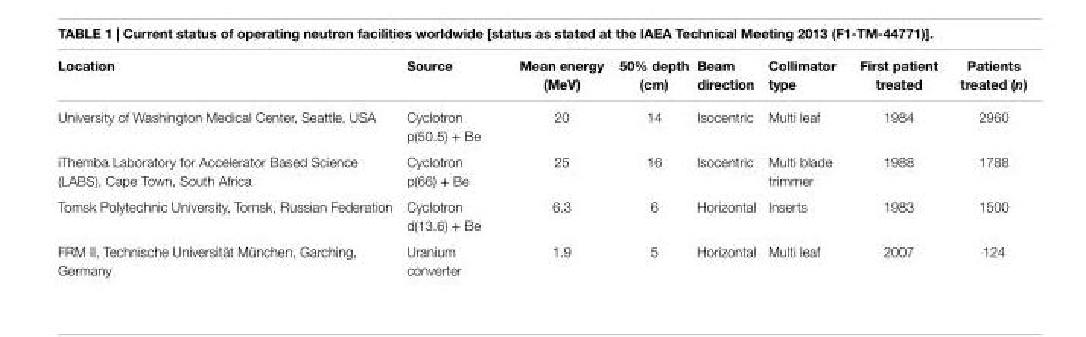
<table><thead><tr><td>location</td><td>source</td><td>Mean energy (MeV)</td><td>50% depth (cm)</td><td>Beam direction</td><td>collimator type</td><td>First patient treated</td><td>Patients treated (n)</td></tr></thead><tbody><tr><td>University of Washington Medical Center, Seattle, USA</td><td>Cyclotron p(50.5) + Be</td><td>20</td><td>14</td><td>Isocentric</td><td>Multi leaf</td><td>1984</td><td>2960</td></tr><tr><td>iThemba Laboratory for Accelerator Based Science (LABS), Cape Town, South Africa</td><td>Cyclotron p(66) + Be</td><td>25</td><td>16</td><td>Isocentric</td><td>Multi blade trimmer</td><td>1988</td><td>1788</td></tr><tr><td>Tomsk Polytechnic University, Tomsk, Russian Federation</td><td>Cyclotron d(13.6) + Be</td><td>6.3</td><td>6</td><td>Horizontal</td><td>Inserts</td><td>1983</td><td>1500</td></tr><tr><td>FRM II, Technische Universität München, Garching, Germany</td><td>Uranium converter</td><td>1.9</td><td>5</td><td>Horizontal</td><td>Multi leaf</td><td>2007</td><td>124</td></tr></tbody></table>